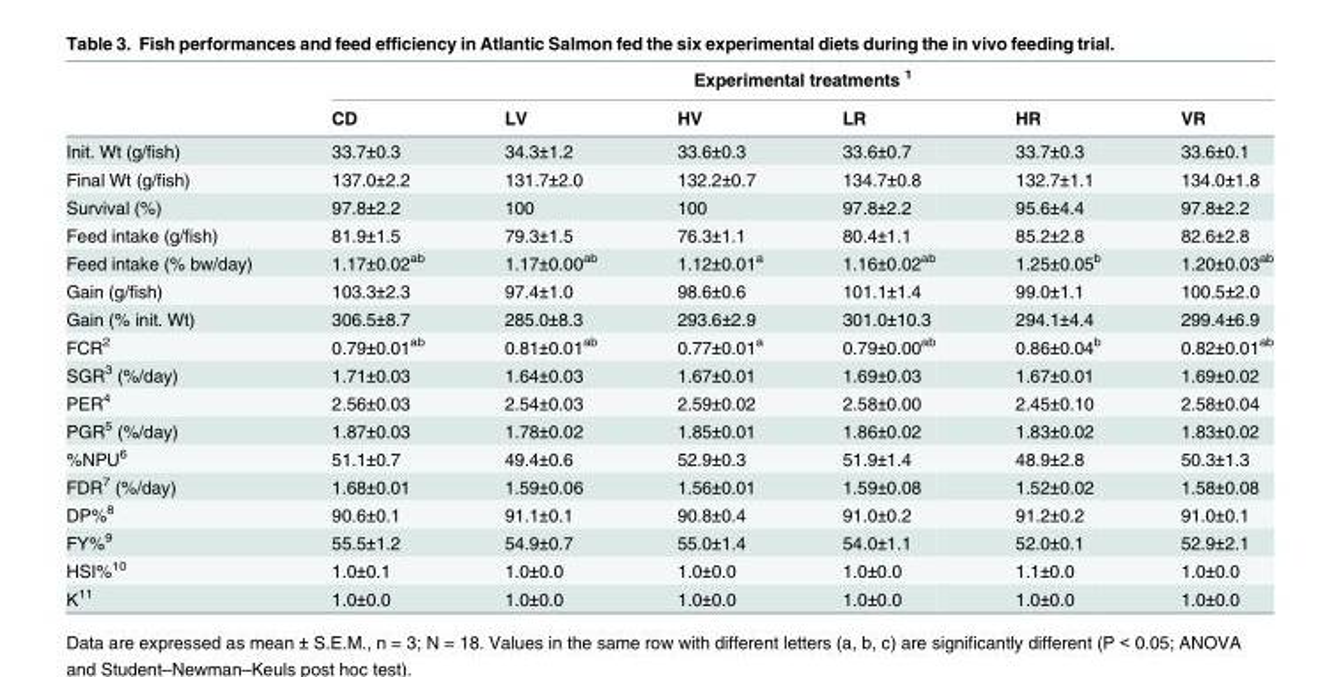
<table><thead><tr><td rowspan="2"></td><td colspan="6">Experimental treatments <sup>1</sup></td></tr><tr><td>CD</td><td>LV</td><td>HV</td><td>LR</td><td>HR</td><td>VR</td></tr></thead><tbody><tr><td>Init. Wt (g/fish)</td><td>33.7±0.3</td><td>34.3±1.2</td><td>33.6±0.3</td><td>33.6±0.7</td><td>33.7±0.3</td><td>33.6±0.1</td></tr><tr><td>Final Wt (g/fish)</td><td>137.0±2.2</td><td>131.7±2.0</td><td>132.2±0.7</td><td>134.7±0.8</td><td>132.7±1.1</td><td>134.0±1.8</td></tr><tr><td>Survival (%)</td><td>97.8±2.2</td><td>100</td><td>100</td><td>97.8±2.2</td><td>95.6±4.4</td><td>97.8±2.2</td></tr><tr><td>Feed intake (g/fish)</td><td>81.9±1.5</td><td>79.3±1.5</td><td>76.3±1.1</td><td>80.4±1.1</td><td>85.2±2.8</td><td>82.6±2.8</td></tr><tr><td>Feed intake (% bw/day)</td><td>1.17±0.02<sup>ab</sup></td><td>1.17±0.00<sup>ab</sup></td><td>1.12±0.01<sup>a</sup></td><td>1.16±0.02<sup>ab</sup></td><td>1.25±0.05<sup>b</sup></td><td>1.20±0.03<sup>ab</sup></td></tr><tr><td>Gain (g/fish)</td><td>103.3±2.3</td><td>97.4±1.0</td><td>98.6±0.6</td><td>101.1±1.4</td><td>99.0±1.1</td><td>100.5±2.0</td></tr><tr><td>Gain (% init. Wt)</td><td>306.5±8.7</td><td>285.0±8.3</td><td>293.6±2.9</td><td>301.0±10.3</td><td>294.1±4.4</td><td>299.4±6.9</td></tr><tr><td>FCR<sup>2</sup></td><td>0.79±0.01<sup>ab</sup></td><td>0.81±0.01<sup>ab</sup></td><td>0.77±0.01<sup>a</sup></td><td>0.79±0.00<sup>ab</sup></td><td>0.86±0.04<sup>b</sup></td><td>0.82±0.01<sup>ab</sup></td></tr><tr><td>SGR<sup>3</sup> (%/day)</td><td>1.71±0.03</td><td>1.64±0.03</td><td>1.67±0.01</td><td>1.69±0.03</td><td>1.67±0.01</td><td>1.69±0.02</td></tr><tr><td>PER<sup>4</sup></td><td>2.56±0.03</td><td>2.54±0.03</td><td>2.59±0.02</td><td>2.58±0.00</td><td>2.45±0.10</td><td>2.58±0.04</td></tr><tr><td>PGR<sup>5</sup> (%/day)</td><td>1.87±0.03</td><td>1.78±0.02</td><td>1.85±0.01</td><td>1.86±0.02</td><td>1.83±0.02</td><td>1.83±0.02</td></tr><tr><td>%NPU<sup>6</sup></td><td>51.1±0.7</td><td>49.4±0.6</td><td>52.9±0.3</td><td>51.9±1.4</td><td>48.9±2.8</td><td>50.3±1.3</td></tr><tr><td>FDR<sup>7</sup> (%/day)</td><td>1.68±0.01</td><td>1.59±0.06</td><td>1.56±0.01</td><td>1.59±0.08</td><td>1.52±0.02</td><td>1.58±0.08</td></tr><tr><td>DP%<sup>8</sup></td><td>90.6±0.1</td><td>91.1±0.1</td><td>90.8±0.4</td><td>91.0±0.2</td><td>91.2±0.2</td><td>91.0±0.1</td></tr><tr><td>FY%<sup>9</sup></td><td>55.5±1.2</td><td>54.9±0.7</td><td>55.0±1.4</td><td>54.0±1.1</td><td>52.0±0.1</td><td>52.9±2.1</td></tr><tr><td>HSI%<sup>10</sup></td><td>1.0±0.1</td><td>1.0±0.0</td><td>1.0±0.0</td><td>1.0±0.0</td><td>1.1±0.0</td><td>1.0±0.0</td></tr><tr><td>K<sup>11</sup></td><td>1.0±0.0</td><td>1.0±0.0</td><td>1.0±0.0</td><td>1.0±0.0</td><td>1.0±0.0</td><td>1.0±0.0</td></tr></tbody></table>